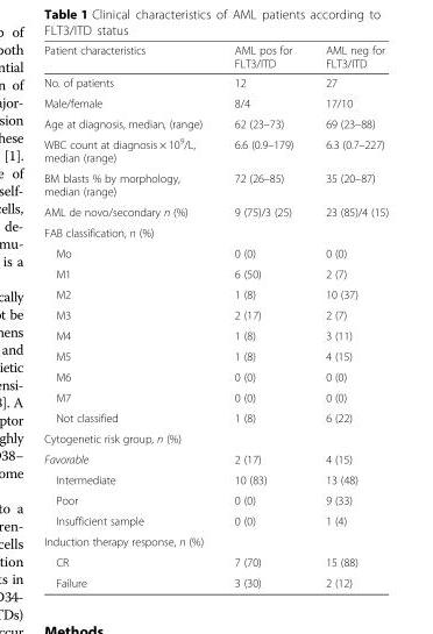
<table><thead><tr><td>Patient characteristics</td><td>AML pos for FLT3/ITD</td><td>AML neg for FLT3/ITD</td></tr></thead><tbody><tr><td>No. of patients</td><td>12</td><td>27</td></tr><tr><td>Male/female</td><td>8/4</td><td>17/10</td></tr><tr><td>Age at diagnosis, median, (range)</td><td>62 (23–73)</td><td>69 (23–88)</td></tr><tr><td>WBC count at diagnosis × 10<sup>9</sup>/L, median (range)</td><td>6.6 (0.9–179)</td><td>6.3 (0.7–227)</td></tr><tr><td>BM blasts % by morphology, median (range)</td><td>72 (26–85)</td><td>35 (20–87)</td></tr><tr><td>AML de novo/secondary n (%)</td><td>9 (75)/3 (25)</td><td>23 (85)/4 (15)</td></tr><tr><td colspan="3">FAB classification, n (%)</td></tr><tr><td>Mo</td><td>0 (0)</td><td>0 (0)</td></tr><tr><td>M1</td><td>6 (50)</td><td>2 (7)</td></tr><tr><td>M2</td><td>1 (8)</td><td>10 (37)</td></tr><tr><td>M3</td><td>2 (17)</td><td>2 (7)</td></tr><tr><td>M4</td><td>1 (8)</td><td>3 (11)</td></tr><tr><td>M5</td><td>1 (8)</td><td>4 (15)</td></tr><tr><td>M6</td><td>0 (0)</td><td>0 (0)</td></tr><tr><td>M7</td><td>0 (0)</td><td>0 (0)</td></tr><tr><td>Not classified</td><td>1 (8)</td><td>6 (22)</td></tr><tr><td colspan="3">Cytogenetic risk group, n (%)</td></tr><tr><td>Favorable</td><td>2 (17)</td><td>4 (15)</td></tr><tr><td>Intermediate</td><td>10 (83)</td><td>13 (48)</td></tr><tr><td>Poor</td><td>0 (0)</td><td>9 (33)</td></tr><tr><td>Insufficient sample</td><td>0 (0)</td><td>1 (4)</td></tr><tr><td colspan="3">Induction therapy response, n (%)</td></tr><tr><td>CR</td><td>7 (70)</td><td>15 (88)</td></tr><tr><td>Failure</td><td>3 (30)</td><td>2 (12)</td></tr></tbody></table>